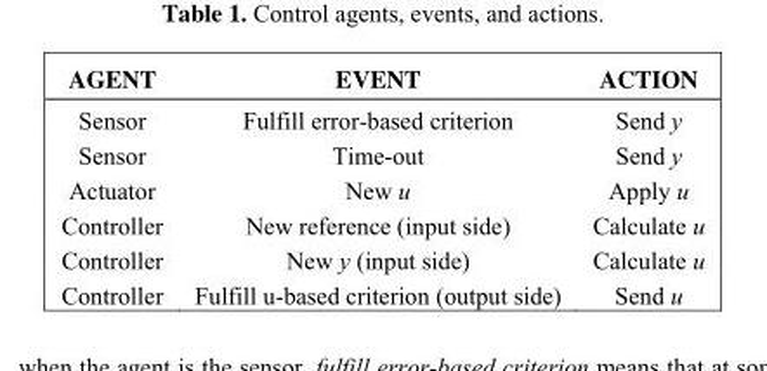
<table><thead><tr><td>AGENT</td><td>EVENT</td><td>ACTION</td></tr></thead><tbody><tr><td>Sensor</td><td>Fulfill error-based criterion</td><td>Send y</td></tr><tr><td>Sensor</td><td>Time-out</td><td>Send y</td></tr><tr><td>Actuator</td><td>New u</td><td>Apply u</td></tr><tr><td>Controller</td><td>New reference (input side)</td><td>Calculate u</td></tr><tr><td>Controller</td><td>New y (input side)</td><td>Calculate u</td></tr><tr><td>Controller</td><td>Fulfill u-based criterion (output side)</td><td>Send u</td></tr></tbody></table>